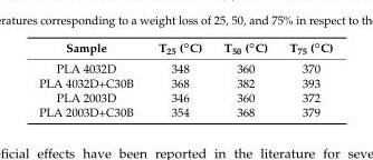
<table><thead><tr><td>Sample</td><td>T25 (◦C)</td><td>T50 (◦C)</td><td>T75 (◦C)</td></tr></thead><tbody><tr><td>PLA 4032D</td><td>348</td><td>360</td><td>370</td></tr><tr><td>PLA 4032D+C30B</td><td>368</td><td>382</td><td>393</td></tr><tr><td>PLA 2003D</td><td>346</td><td>360</td><td>372</td></tr><tr><td>PLA 2003D+C30B</td><td>354</td><td>368</td><td>379</td></tr></tbody></table>